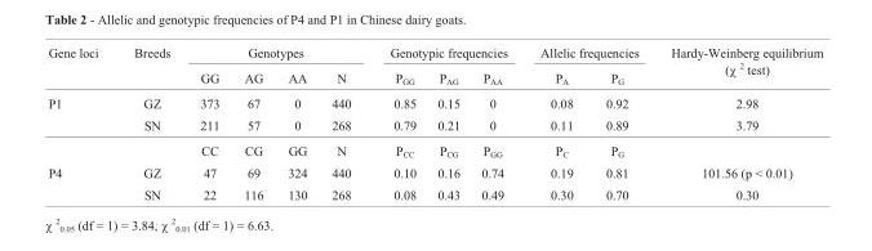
<table><thead><tr><td rowspan="2">Gene loci</td><td rowspan="2">Breeds</td><td colspan="4">Genotypes</td><td colspan="3">Genotypic frequencies</td><td colspan="2">Allelic frequencies</td><td rowspan="2">Hardy-Weinberg equilibrium (χ <sup>2</sup> test)</td></tr><tr><td>GG</td><td>AG</td><td>AA</td><td>N</td><td>P<sub>GG</sub></td><td>P<sub>AG</sub></td><td>P<sub>AA</sub></td><td>P<sub>A</sub></td><td>P<sub>G</sub></td></tr></thead><tbody><tr><td rowspan="3">P1</td><td>GZ</td><td>373</td><td>67</td><td>0</td><td>440</td><td>0.85</td><td>0.15</td><td>0</td><td>0.08</td><td>0.92</td><td>2.98</td></tr><tr><td>SN</td><td>211</td><td>57</td><td>0</td><td>268</td><td>0.79</td><td>0.21</td><td>0</td><td>0.11</td><td>0.89</td><td>3.79</td></tr><tr><td></td><td>CC</td><td>CG</td><td>GG</td><td>N</td><td>P<sub>CC</sub></td><td>P<sub>CG</sub></td><td>P<sub>GG</sub></td><td>P<sub>C</sub></td><td>P<sub>G</sub></td><td></td></tr><tr><td rowspan="2">P4</td><td>GZ</td><td>47</td><td>69</td><td>324</td><td>440</td><td>0.10</td><td>0.16</td><td>0.74</td><td>0.19</td><td>0.81</td><td>101.56 (p &lt; 0.01)</td></tr><tr><td>SN</td><td>22</td><td>116</td><td>130</td><td>268</td><td>0.08</td><td>0.43</td><td>0.49</td><td>0.30</td><td>0.70</td><td>0.30</td></tr></tbody></table>